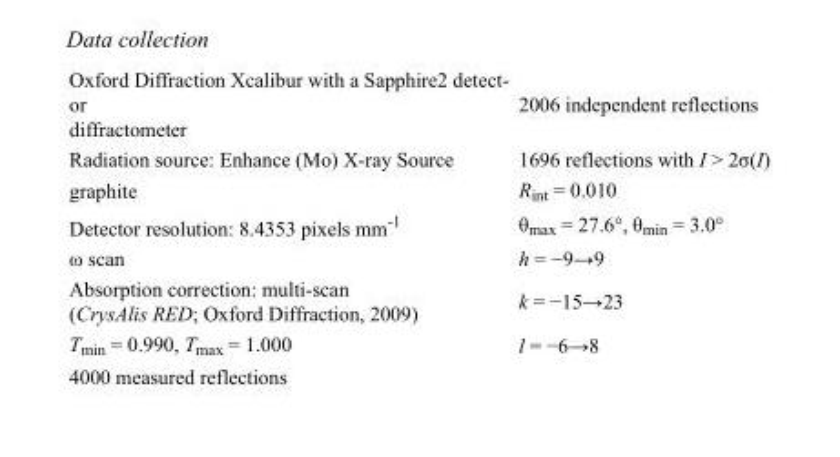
<table><tbody><tr><td>Oxford Diffraction Xcalibur with a Sapphire2 detect- or diffractometer</td><td>2006 independent reflections</td></tr><tr><td>Radiation source: Enhance (Mo) X-ray Source</td><td>1696 reflections with I &gt; 2σ(I)</td></tr><tr><td>graphite</td><td>R<sub>int</sub> = 0.010</td></tr><tr><td>Detector resolution: 8.4353 pixels mm<sup>-1</sup></td><td>θ<sub>max</sub> = 27.6°, θ<sub>min</sub> = 3.0°</td></tr><tr><td>ω scan</td><td>h = −9→9</td></tr><tr><td>Absorption correction: multi-scan (CrysAlis RED; Oxford Diffraction, 2009)</td><td>k = −15→23</td></tr><tr><td>T<sub>min</sub> = 0.990, T<sub>max</sub> = 1.000</td><td>l = −6→8</td></tr><tr><td>4000 measured reflections</td><td></td></tr></tbody></table>